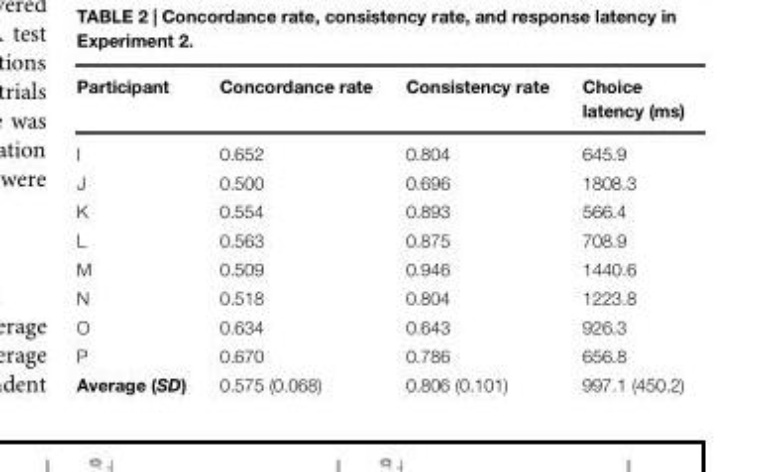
<table><thead><tr><td>Participant</td><td>Concordance rate</td><td>Consistency rate</td><td>Choice latency (ms)</td></tr></thead><tbody><tr><td>I</td><td>0.652</td><td>0.804</td><td>645.9</td></tr><tr><td>J</td><td>0.500</td><td>0.696</td><td>1808.3</td></tr><tr><td>K</td><td>0.554</td><td>0.893</td><td>566.4</td></tr><tr><td>L</td><td>0.563</td><td>0.875</td><td>708.9</td></tr><tr><td>M</td><td>0.509</td><td>0.946</td><td>1440.6</td></tr><tr><td>N</td><td>0.518</td><td>0.804</td><td>1223.8</td></tr><tr><td>O</td><td>0.634</td><td>0.643</td><td>926.3</td></tr><tr><td>P</td><td>0.670</td><td>0.786</td><td>656.8</td></tr><tr><td>Average (SD)</td><td>0.575 (0.068)</td><td>0.806 (0.101)</td><td>997.1 (450.2)</td></tr></tbody></table>